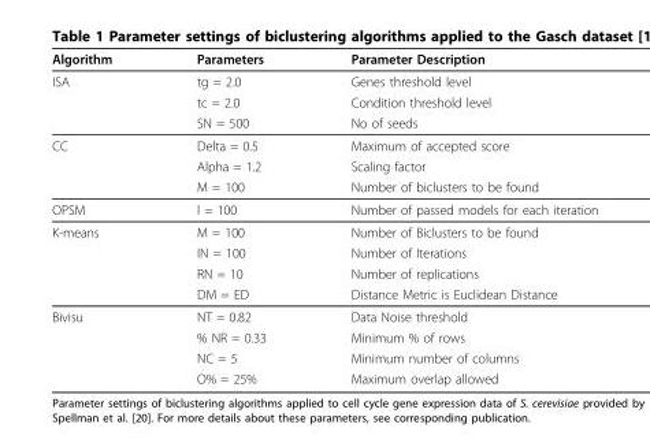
<table><thead><tr><td>Algorithm</td><td>Parameters</td><td>Parameter Description</td></tr></thead><tbody><tr><td rowspan="3">ISA</td><td>tg = 2.0</td><td>Genes threshold level</td></tr><tr><td>tc = 2.0</td><td>Condition threshold level</td></tr><tr><td>SN = 500</td><td>No of seeds</td></tr><tr><td rowspan="3">CC</td><td>Delta = 0.5</td><td>Maximum of accepted score</td></tr><tr><td>Alpha = 1.2</td><td>Scaling factor</td></tr><tr><td>M = 100</td><td>Number of biclusters to be found</td></tr><tr><td>OPSM</td><td>l = 100</td><td>Number of passed models for each iteration</td></tr><tr><td rowspan="4">K-means</td><td>M = 100</td><td>Number of Biclusters to be found</td></tr><tr><td>IN = 100</td><td>Number of Iterations</td></tr><tr><td>RN = 10</td><td>Number of replications</td></tr><tr><td>DM = ED</td><td>Distance Metric is Euclidean Distance</td></tr><tr><td rowspan="4">Bivisu</td><td>NT = 0.82</td><td>Data Noise threshold</td></tr><tr><td>% NR = 0.33</td><td>Minimum % of rows</td></tr><tr><td>NC = 5</td><td>Minimum number of columns</td></tr><tr><td>O% = 25%</td><td>Maximum overlap allowed</td></tr></tbody></table>